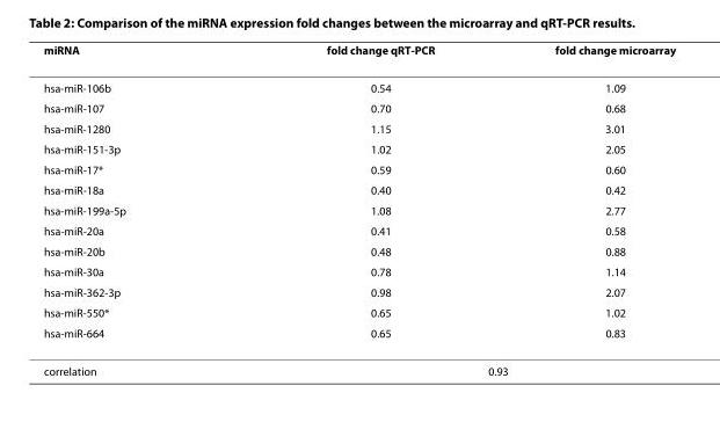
<table><thead><tr><td>miRNA</td><td>fold change qRT-PCR</td><td>fold change microarray</td></tr></thead><tbody><tr><td>hsa-miR-106b</td><td>0.54</td><td>1.09</td></tr><tr><td>hsa-miR-107</td><td>0.70</td><td>0.68</td></tr><tr><td>hsa-miR-1280</td><td>1.15</td><td>3.01</td></tr><tr><td>hsa-miR-151-3p</td><td>1.02</td><td>2.05</td></tr><tr><td>hsa-miR-17*</td><td>0.59</td><td>0.60</td></tr><tr><td>hsa-miR-18a</td><td>0.40</td><td>0.42</td></tr><tr><td>hsa-miR-199a-5p</td><td>1.08</td><td>2.77</td></tr><tr><td>hsa-miR-20a</td><td>0.41</td><td>0.58</td></tr><tr><td>hsa-miR-20b</td><td>0.48</td><td>0.88</td></tr><tr><td>hsa-miR-30a</td><td>0.78</td><td>1.14</td></tr><tr><td>hsa-miR-362-3p</td><td>0.98</td><td>2.07</td></tr><tr><td>hsa-miR-550*</td><td>0.65</td><td>1.02</td></tr><tr><td>hsa-miR-664</td><td>0.65</td><td>0.83</td></tr><tr><td>correlation</td><td colspan="2">0.93</td></tr></tbody></table>